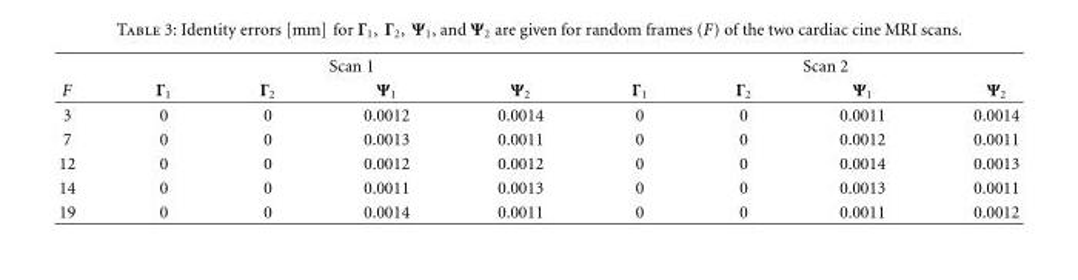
<table><thead><tr><td rowspan="2">F</td><td colspan="4">Scan 1</td><td colspan="4">Scan 2</td></tr><tr><td>Γ<sub>1</sub></td><td>Γ<sub>2</sub></td><td>Ψ<sub>1</sub></td><td>Ψ<sub>2</sub></td><td>Γ<sub>1</sub></td><td>Γ<sub>2</sub></td><td>Ψ<sub>1</sub></td><td>Ψ<sub>2</sub></td></tr></thead><tbody><tr><td>3</td><td>0</td><td>0</td><td>0.0012</td><td>0.0014</td><td>0</td><td>0</td><td>0.0011</td><td>0.0014</td></tr><tr><td>7</td><td>0</td><td>0</td><td>0.0013</td><td>0.0011</td><td>0</td><td>0</td><td>0.0012</td><td>0.0011</td></tr><tr><td>12</td><td>0</td><td>0</td><td>0.0012</td><td>0.0012</td><td>0</td><td>0</td><td>0.0014</td><td>0.0013</td></tr><tr><td>14</td><td>0</td><td>0</td><td>0.0011</td><td>0.0013</td><td>0</td><td>0</td><td>0.0013</td><td>0.0011</td></tr><tr><td>19</td><td>0</td><td>0</td><td>0.0014</td><td>0.0011</td><td>0</td><td>0</td><td>0.0011</td><td>0.0012</td></tr></tbody></table>